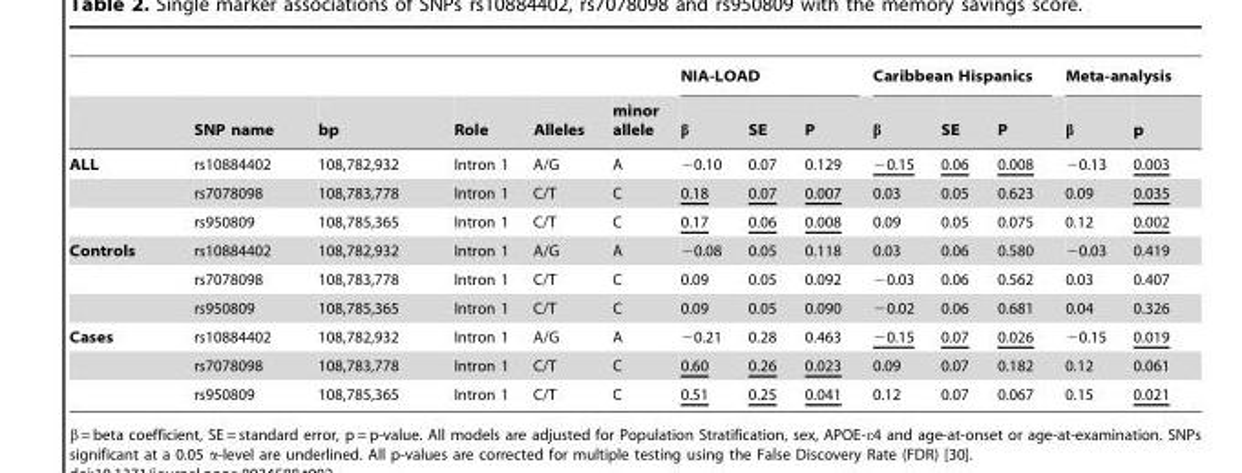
<table><thead><tr><td rowspan="2"></td><td rowspan="2">SNP name</td><td rowspan="2">bp</td><td rowspan="2">Role</td><td rowspan="2">Alleles</td><td rowspan="2">minor allele</td><td colspan="3">NIA-LOAD</td><td colspan="3">Caribbean Hispanics</td><td colspan="2">Meta-analysis</td></tr><tr><td>β</td><td>SE</td><td>P</td><td>β</td><td>SE</td><td>P</td><td>β</td><td>p</td></tr></thead><tbody><tr><td rowspan="3">ALL</td><td>rs10884402</td><td>108,782,932</td><td>Intron 1</td><td>A/G</td><td>A</td><td>−0.10</td><td>0.07</td><td>0.129</td><td>−0.15</td><td>0.06</td><td>0.008</td><td>−0.13</td><td>0.003</td></tr><tr><td>rs7078098</td><td>108,783,778</td><td>Intron 1</td><td>C/T</td><td>C</td><td>0.18</td><td>0.07</td><td>0.007</td><td>0.03</td><td>0.05</td><td>0.623</td><td>0.09</td><td>0.035</td></tr><tr><td>rs950809</td><td>108,785,365</td><td>Intron 1</td><td>C/T</td><td>C</td><td>0.17</td><td>0.06</td><td>0.008</td><td>0.09</td><td>0.05</td><td>0.075</td><td>0.12</td><td>0.002</td></tr><tr><td rowspan="3">Controls</td><td>rs10884402</td><td>108,782,932</td><td>Intron 1</td><td>A/G</td><td>A</td><td>−0.08</td><td>0.05</td><td>0.118</td><td>0.03</td><td>0.06</td><td>0.580</td><td>−0.03</td><td>0.419</td></tr><tr><td>rs7078098</td><td>108,783,778</td><td>Intron 1</td><td>C/T</td><td>C</td><td>0.09</td><td>0.05</td><td>0.092</td><td>−0.03</td><td>0.06</td><td>0.562</td><td>0.03</td><td>0.407</td></tr><tr><td>rs950809</td><td>108,785,365</td><td>Intron 1</td><td>C/T</td><td>C</td><td>0.09</td><td>0.05</td><td>0.090</td><td>−0.02</td><td>0.06</td><td>0.681</td><td>0.04</td><td>0.326</td></tr><tr><td rowspan="3">Cases</td><td>rs10884402</td><td>108,782,932</td><td>Intron 1</td><td>A/G</td><td>A</td><td>−0.21</td><td>0.28</td><td>0.463</td><td>−0.15</td><td>0.07</td><td>0.026</td><td>−0.15</td><td>0.019</td></tr><tr><td>rs7078098</td><td>108,783,778</td><td>Intron 1</td><td>C/T</td><td>C</td><td>0.60</td><td>0.26</td><td>0.023</td><td>0.09</td><td>0.07</td><td>0.182</td><td>0.12</td><td>0.061</td></tr><tr><td>rs950809</td><td>108,785,365</td><td>Intron 1</td><td>C/T</td><td>C</td><td>0.51</td><td>0.25</td><td>0.041</td><td>0.12</td><td>0.07</td><td>0.067</td><td>0.15</td><td>0.021</td></tr></tbody></table>